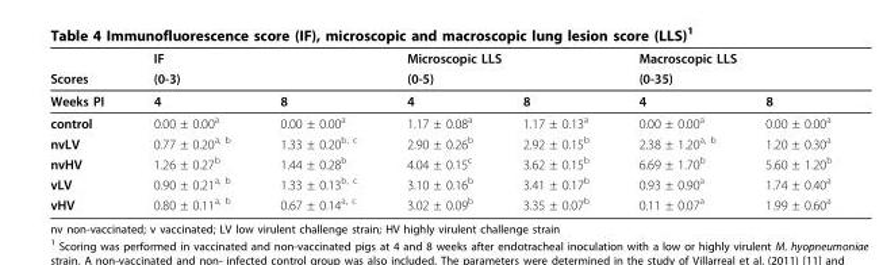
<table><thead><tr><td rowspan="3">Scores Weeks PI</td><td rowspan="2" colspan="2">IF (0-3)</td><td rowspan="2" colspan="2">Microscopic LLS (0-5)</td><td rowspan="2" colspan="2">Macroscopic LLS (0-35)</td></tr><tr></tr><tr><td>4</td><td>8</td><td>4</td><td>8</td><td>4</td><td>8</td></tr></thead><tbody><tr><td>control</td><td>0.00 ± 0.00<sup>a</sup></td><td>0.00 ± 0.00<sup>a</sup></td><td>1.17 ± 0.08<sup>a</sup></td><td>1.17 ± 0.13<sup>a</sup></td><td>0.00 ± 0.00<sup>a</sup></td><td>0.00 ± 0.00<sup>a</sup></td></tr><tr><td>nvLV</td><td>0.77 ± 0.20<sup>a, b</sup></td><td>1.33 ± 0.20<sup>b, c</sup></td><td>2.90 ± 0.26<sup>b</sup></td><td>2.92 ± 0.15<sup>b</sup></td><td>2.38 ± 1.20<sup>a, b</sup></td><td>1.20 ± 0.30<sup>a</sup></td></tr><tr><td>nvHV</td><td>1.26 ± 0.27<sup>b</sup></td><td>1.44 ± 0.28<sup>b</sup></td><td>4.04 ± 0.15<sup>c</sup></td><td>3.62 ± 0.15<sup>b</sup></td><td>6.69 ± 1.70<sup>b</sup></td><td>5.60 ± 1.20<sup>b</sup></td></tr><tr><td>vLV</td><td>0.90 ± 0.21<sup>a, b</sup></td><td>1.33 ± 0.13<sup>b, c</sup></td><td>3.10 ± 0.16<sup>b</sup></td><td>3.41 ± 0.17<sup>b</sup></td><td>0.93 ± 0.90<sup>a</sup></td><td>1.74 ± 0.40<sup>a</sup></td></tr><tr><td>vHV</td><td>0.80 ± 0.11<sup>a, b</sup></td><td>0.67 ± 0.14<sup>a, c</sup></td><td>3.02 ± 0.09<sup>b</sup></td><td>3.35 ± 0.07<sup>b</sup></td><td>0.11 ± 0.07<sup>a</sup></td><td>1.99 ± 0.60<sup>a</sup></td></tr></tbody></table>